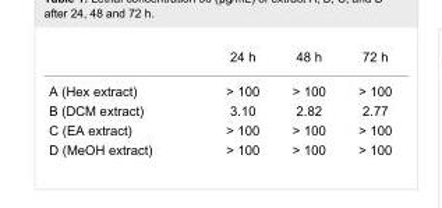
<table><thead><tr><td></td><td>24 h</td><td>48 h</td><td>72 h</td></tr></thead><tbody><tr><td>A (Hex extract)</td><td>&gt; 100</td><td>&gt; 100</td><td>&gt; 100</td></tr><tr><td>B (DCM extract)</td><td>3.10</td><td>2.82</td><td>2.77</td></tr><tr><td>C (EA extract)</td><td>&gt; 100</td><td>&gt; 100</td><td>&gt; 100</td></tr><tr><td>D (MeOH extract)</td><td>&gt; 100</td><td>&gt; 100</td><td>&gt; 100</td></tr></tbody></table>